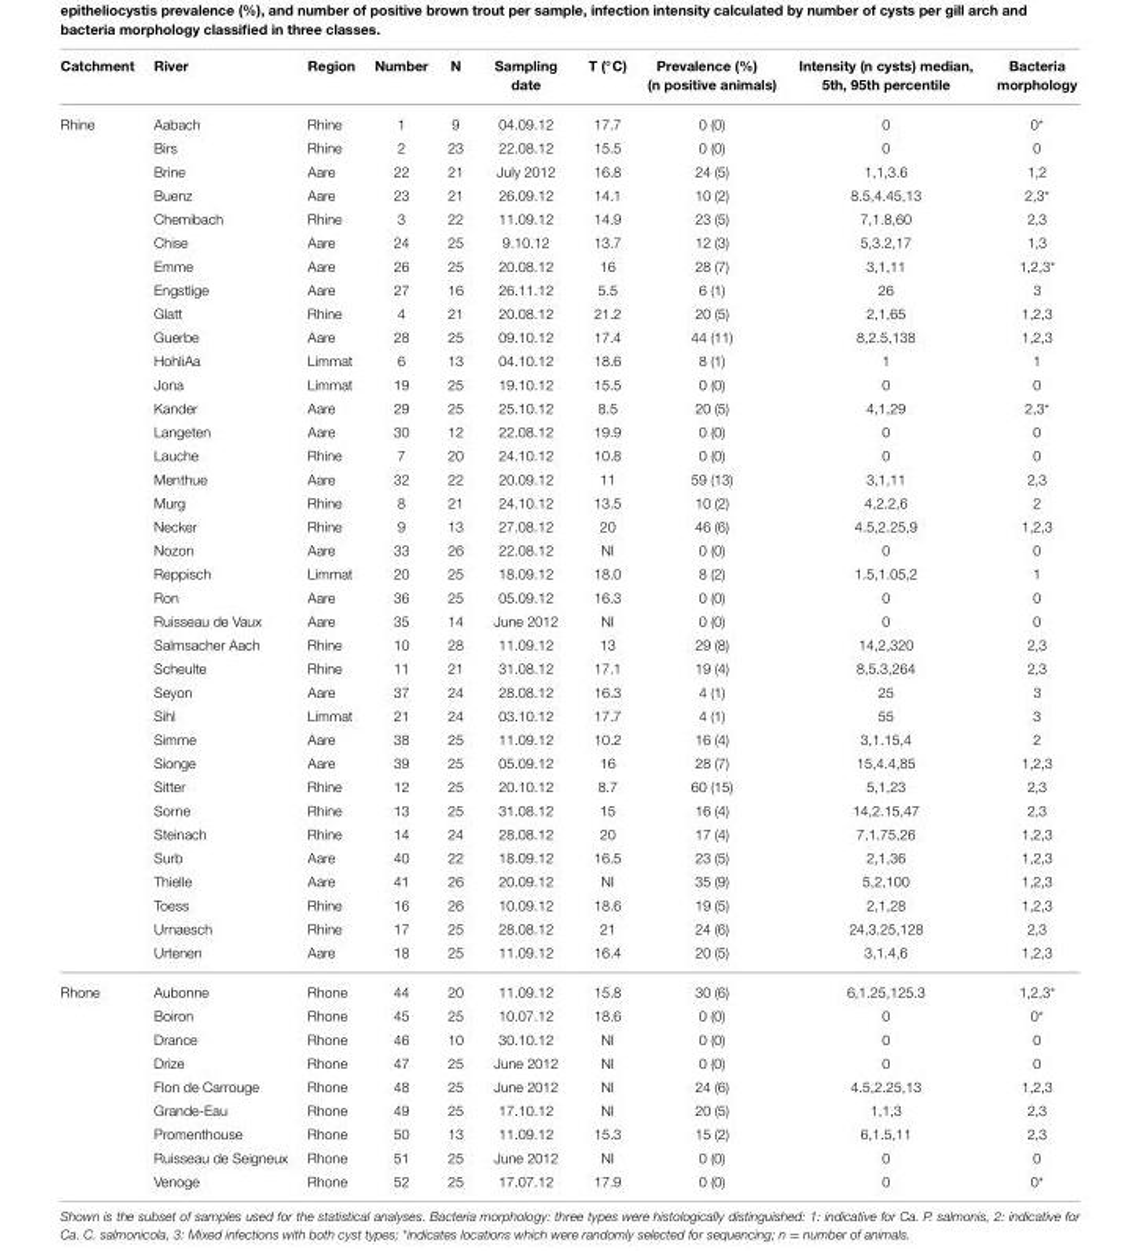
<table><thead><tr><td>Catchment</td><td>River</td><td>Region</td><td>Number</td><td>N</td><td>Sampling date</td><td>T (◦C)</td><td>Prevalence (%) (n positive animals)</td><td>Intensity (n cysts) median, 5th, 95th percentile</td><td>Bacteria morphology</td></tr></thead><tbody><tr><td rowspan="36">Rhine</td><td>Aabach</td><td>Rhine</td><td>1</td><td>9</td><td>04.09.12</td><td>17.7</td><td>0 (0)</td><td>0</td><td>0*</td></tr><tr><td>Birs</td><td>Rhine</td><td>2</td><td>23</td><td>22.08.12</td><td>15.5</td><td>0 (0)</td><td>0</td><td>0</td></tr><tr><td>Brine</td><td>Aare</td><td>22</td><td>21</td><td>July 2012</td><td>16.8</td><td>24 (5)</td><td>1,1,3.6</td><td>1,2</td></tr><tr><td>Buenz</td><td>Aare</td><td>23</td><td>21</td><td>26.09.12</td><td>14.1</td><td>10 (2)</td><td>8.5,4.45,13</td><td>2,3*</td></tr><tr><td>Chemibach</td><td>Rhine</td><td>3</td><td>22</td><td>11.09.12</td><td>14.9</td><td>23 (5)</td><td>7,1.8,60</td><td>2,3</td></tr><tr><td>Chise</td><td>Aare</td><td>24</td><td>25</td><td>9.10.12</td><td>13.7</td><td>12 (3)</td><td>5,3.2,17</td><td>1,3</td></tr><tr><td>Emme</td><td>Aare</td><td>26</td><td>25</td><td>20.08.12</td><td>16</td><td>28 (7)</td><td>3,1,11</td><td>1,2,3*</td></tr><tr><td>Engstlige</td><td>Aare</td><td>27</td><td>16</td><td>26.11.12</td><td>5.5</td><td>6 (1)</td><td>26</td><td>3</td></tr><tr><td>Glatt</td><td>Rhine</td><td>4</td><td>21</td><td>20.08.12</td><td>21.2</td><td>20 (5)</td><td>2,1,65</td><td>1,2,3</td></tr><tr><td>Guerbe</td><td>Aare</td><td>28</td><td>25</td><td>09.10.12</td><td>17.4</td><td>44 (11)</td><td>8,2.5,138</td><td>1,2,3</td></tr><tr><td>HohliAa</td><td>Limmat</td><td>6</td><td>13</td><td>04.10.12</td><td>18.6</td><td>8 (1)</td><td>1</td><td>1</td></tr><tr><td>Jona</td><td>Limmat</td><td>19</td><td>25</td><td>19.10.12</td><td>15.5</td><td>0 (0)</td><td>0</td><td>0</td></tr><tr><td>Kander</td><td>Aare</td><td>29</td><td>25</td><td>25.10.12</td><td>8.5</td><td>20 (5)</td><td>4,1,29</td><td>2,3*</td></tr><tr><td>Langeten</td><td>Aare</td><td>30</td><td>12</td><td>22.08.12</td><td>19.9</td><td>0 (0)</td><td>0</td><td>0</td></tr><tr><td>Lauche</td><td>Rhine</td><td>7</td><td>20</td><td>24.10.12</td><td>10.8</td><td>0 (0)</td><td>0</td><td>0</td></tr><tr><td>Menthue</td><td>Aare</td><td>32</td><td>22</td><td>20.09.12</td><td>11</td><td>59 (13)</td><td>3,1,11</td><td>2,3</td></tr><tr><td>Murg</td><td>Rhine</td><td>8</td><td>21</td><td>24.10.12</td><td>13.5</td><td>10 (2)</td><td>4,2.2,6</td><td>2</td></tr><tr><td>Necker</td><td>Rhine</td><td>9</td><td>13</td><td>27.08.12</td><td>20</td><td>46 (6)</td><td>4.5,2.25,9</td><td>1,2,3</td></tr><tr><td>Nozon</td><td>Aare</td><td>33</td><td>26</td><td>22.08.12</td><td>NI</td><td>0 (0)</td><td>0</td><td>0</td></tr><tr><td>Reppisch</td><td>Limmat</td><td>20</td><td>25</td><td>18.09.12</td><td>18.0</td><td>8 (2)</td><td>1.5,1.05,2</td><td>1</td></tr><tr><td>Ron</td><td>Aare</td><td>36</td><td>25</td><td>05.09.12</td><td>16.3</td><td>0 (0)</td><td>0</td><td>0</td></tr><tr><td>Ruisseau de Vaux</td><td>Aare</td><td>35</td><td>14</td><td>June 2012</td><td>NI</td><td>0 (0)</td><td>0</td><td>0</td></tr><tr><td>Salmsacher Aach</td><td>Rhine</td><td>10</td><td>28</td><td>11.09.12</td><td>13</td><td>29 (8)</td><td>14,2,320</td><td>2,3</td></tr><tr><td>Scheulte</td><td>Rhine</td><td>11</td><td>21</td><td>31.08.12</td><td>17.1</td><td>19 (4)</td><td>8,5.3,264</td><td>2,3</td></tr><tr><td>Seyon</td><td>Aare</td><td>37</td><td>24</td><td>28.08.12</td><td>16.3</td><td>4 (1)</td><td>25</td><td>3</td></tr><tr><td>Sihl</td><td>Limmat</td><td>21</td><td>24</td><td>03.10.12</td><td>17.7</td><td>4 (1)</td><td>55</td><td>3</td></tr><tr><td>Simme</td><td>Aare</td><td>38</td><td>25</td><td>11.09.12</td><td>10.2</td><td>16 (4)</td><td>3,1.15,4</td><td>2</td></tr><tr><td>Sionge</td><td>Aare</td><td>39</td><td>25</td><td>05.09.12</td><td>16</td><td>28 (7)</td><td>15,4.4,85</td><td>1,2,3</td></tr><tr><td>Sitter</td><td>Rhine</td><td>12</td><td>25</td><td>20.10.12</td><td>8.7</td><td>60 (15)</td><td>5,1,23</td><td>2,3</td></tr><tr><td>Sorne</td><td>Rhine</td><td>13</td><td>25</td><td>31.08.12</td><td>15</td><td>16 (4)</td><td>14,2.15,47</td><td>2,3</td></tr><tr><td>Steinach</td><td>Rhine</td><td>14</td><td>24</td><td>28.08.12</td><td>20</td><td>17 (4)</td><td>7,1.75,26</td><td>1,2,3</td></tr><tr><td>Surb</td><td>Aare</td><td>40</td><td>22</td><td>18.09.12</td><td>16.5</td><td>23 (5)</td><td>2,1,36</td><td>1,2,3</td></tr><tr><td>Thielle</td><td>Aare</td><td>41</td><td>26</td><td>20.09.12</td><td>NI</td><td>35 (9)</td><td>5,2,100</td><td>1,2,3</td></tr><tr><td>Toess</td><td>Rhine</td><td>16</td><td>26</td><td>10.09.12</td><td>18.6</td><td>19 (5)</td><td>2,1,28</td><td>1,2,3</td></tr><tr><td>Urnaesch</td><td>Rhine</td><td>17</td><td>25</td><td>28.08.12</td><td>21</td><td>24 (6)</td><td>24,3.25,128</td><td>2,3</td></tr><tr><td>Urtenen</td><td>Aare</td><td>18</td><td>25</td><td>11.09.12</td><td>16.4</td><td>20 (5)</td><td>3,1.4,6</td><td>1,2,3</td></tr><tr><td rowspan="9">Rhone</td><td>Aubonne</td><td>Rhone</td><td>44</td><td>20</td><td>11.09.12</td><td>15.8</td><td>30 (6)</td><td>6,1.25,125.3</td><td>1,2,3*</td></tr><tr><td>Boiron</td><td>Rhone</td><td>45</td><td>25</td><td>10.07.12</td><td>18.6</td><td>0 (0)</td><td>0</td><td>0*</td></tr><tr><td>Drance</td><td>Rhone</td><td>46</td><td>10</td><td>30.10.12</td><td>NI</td><td>0 (0)</td><td>0</td><td>0</td></tr><tr><td>Drize</td><td>Rhone</td><td>47</td><td>25</td><td>June 2012</td><td>NI</td><td>0 (0)</td><td>0</td><td>0</td></tr><tr><td>Flon de Carrouge</td><td>Rhone</td><td>48</td><td>25</td><td>June 2012</td><td>NI</td><td>24 (6)</td><td>4.5,2.25,13</td><td>1,2,3</td></tr><tr><td>Grande-Eau</td><td>Rhone</td><td>49</td><td>25</td><td>17.10.12</td><td>NI</td><td>20 (5)</td><td>1,1,3</td><td>2,3</td></tr><tr><td>Promenthouse</td><td>Rhone</td><td>50</td><td>13</td><td>11.09.12</td><td>15.3</td><td>15 (2)</td><td>6,1.5,11</td><td>2,3</td></tr><tr><td>Ruisseau de Seigneux</td><td>Rhone</td><td>51</td><td>25</td><td>June 2012</td><td>NI</td><td>0 (0)</td><td>0</td><td>0</td></tr><tr><td>Venoge</td><td>Rhone</td><td>52</td><td>25</td><td>17.07.12</td><td>17.9</td><td>0 (0)</td><td>0</td><td>0*</td></tr></tbody></table>